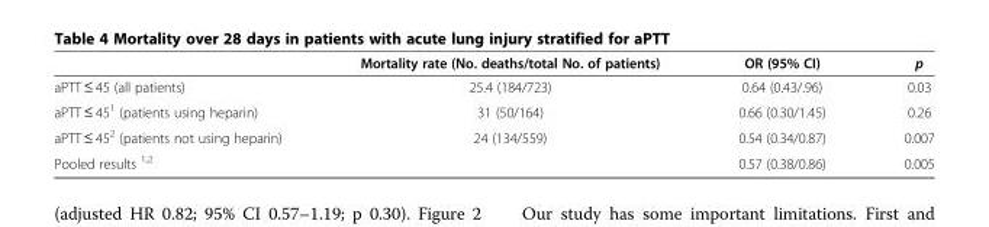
<table><thead><tr><td></td><td>Mortality rate (No. deaths/total No. of patients)</td><td>OR (95% CI)</td><td>p</td></tr></thead><tbody><tr><td>aPTT ≤ 45 (all patients)</td><td>25.4 (184/723)</td><td>0.64 (0.43/.96)</td><td>0.03</td></tr><tr><td>aPTT ≤ 45<sup>1</sup> (patients using heparin)</td><td>31 (50/164)</td><td>0.66 (0.30/1.45)</td><td>0.26</td></tr><tr><td>aPTT ≤ 45<sup>2</sup> (patients not using heparin)</td><td>24 (134/559)</td><td>0.54 (0.34/0.87)</td><td>0.007</td></tr><tr><td>Pooled results <sup>1,2</sup></td><td></td><td>0.57 (0.38/0.86)</td><td>0.005</td></tr></tbody></table>